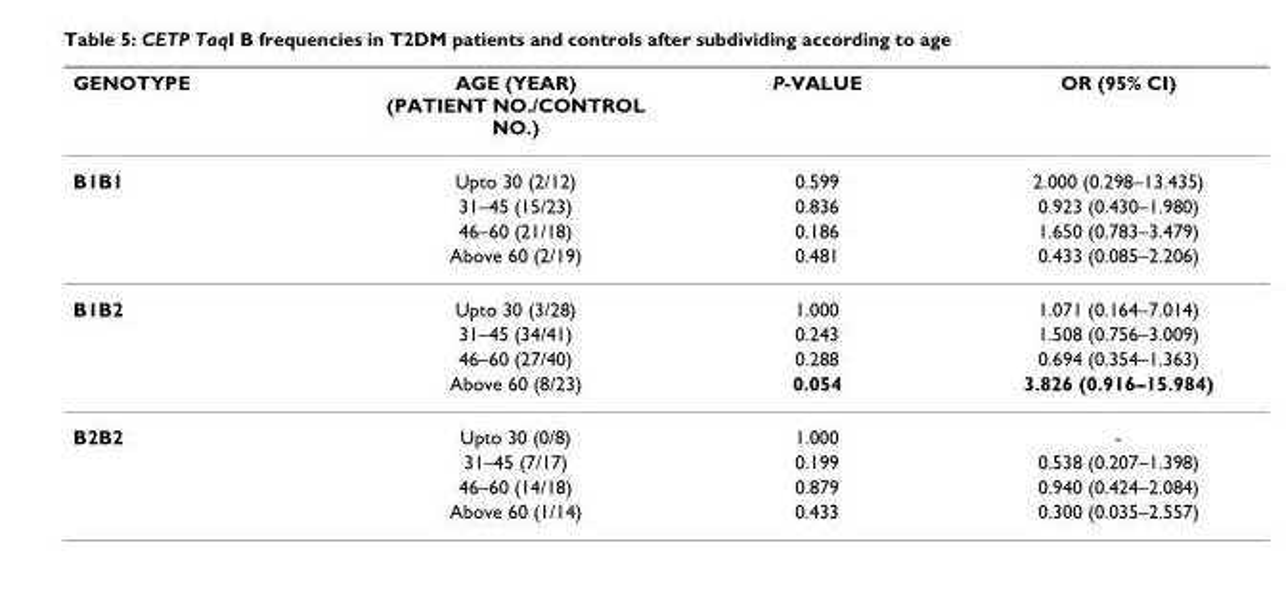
<table><thead><tr><td>GENOTYPE</td><td>AGE (YEAR) (PATIENT NO./CONTROL NO.)</td><td>P-VALUE</td><td>OR (95% CI)</td></tr></thead><tbody><tr><td rowspan="4">B1B1</td><td>Upto 30 (2/12)</td><td>0.599</td><td>2.000 (0.298–13.435)</td></tr><tr><td>31–45 (15/23)</td><td>0.836</td><td>0.923 (0.430–1.980)</td></tr><tr><td>46–60 (21/18)</td><td>0.186</td><td>1.650 (0.783–3.479)</td></tr><tr><td>Above 60 (2/19)</td><td>0.481</td><td>0.433 (0.085–2.206)</td></tr><tr><td rowspan="4">B1B2</td><td>Upto 30 (3/28)</td><td>1.000</td><td>1.071 (0.164–7.014)</td></tr><tr><td>31–45 (34/41)</td><td>0.243</td><td>1.508 (0.756–3.009)</td></tr><tr><td>46–60 (27/40)</td><td>0.288</td><td>0.694 (0.354–1.363)</td></tr><tr><td>Above 60 (8/23)</td><td>0.054</td><td>3.826 (0.916–15.984)</td></tr><tr><td rowspan="4">B2B2</td><td>Upto 30 (0/8)</td><td>1.000</td><td>-</td></tr><tr><td>31–45 (7/17)</td><td>0.199</td><td>0.538 (0.207–1.398)</td></tr><tr><td>46–60 (14/18)</td><td>0.879</td><td>0.940 (0.424–2.084)</td></tr><tr><td>Above 60 (1/14)</td><td>0.433</td><td>0.300 (0.035–2.557)</td></tr></tbody></table>